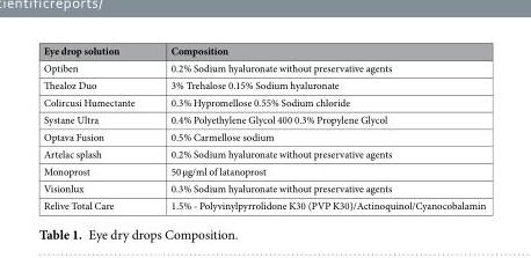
<table><thead><tr><td>Eye drop solution</td><td>Composition</td></tr></thead><tbody><tr><td>Optiben</td><td>0.2% Sodium hyaluronate without preservative agents</td></tr><tr><td>Thealoz Duo</td><td>3% Trehalose 0.15% Sodium hyaluronate</td></tr><tr><td>Colircusi Humectante</td><td>0.3% Hypromellose 0.55% Sodium chloride</td></tr><tr><td>Systane Ultra</td><td>0.4% Polyethylene Glycol 400 0.3% Propylene Glycol</td></tr><tr><td>Optava Fusion</td><td>0.5% Carmellose sodium</td></tr><tr><td>Artelac splash</td><td>0.2% Sodium hyaluronate without preservative agents</td></tr><tr><td>Monoprost</td><td>50 µg/ml of latanoprost</td></tr><tr><td>Visionlux</td><td>0.3% Sodium hyaluronate without preservative agents</td></tr><tr><td>Relive Total Care</td><td>1.5% - Polyvinylpyrrolidone K30 (PVP K30)/Actinoquinol/Cyanocobalamin</td></tr></tbody></table>